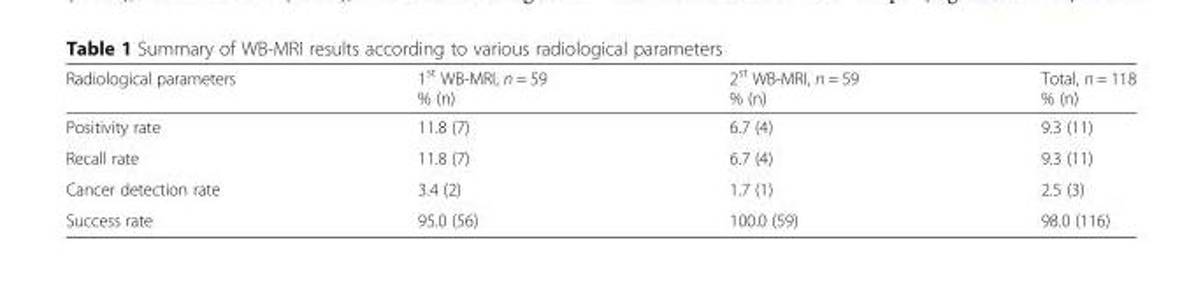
<table><thead><tr><td>Radiological parameters</td><td>1<sup>st</sup> WB-MRI, n = 59 % (n)</td><td>2<sup>st</sup> WB-MRI, n = 59 % (n)</td><td>Total, n = 118 % (n)</td></tr></thead><tbody><tr><td>Positivity rate</td><td>11.8 (7)</td><td>6.7 (4)</td><td>9.3 (11)</td></tr><tr><td>Recall rate</td><td>11.8 (7)</td><td>6.7 (4)</td><td>9.3 (11)</td></tr><tr><td>Cancer detection rate</td><td>3.4 (2)</td><td>1.7 (1)</td><td>2.5 (3)</td></tr><tr><td>Success rate</td><td>95.0 (56)</td><td>100.0 (59)</td><td>98.0 (116)</td></tr></tbody></table>